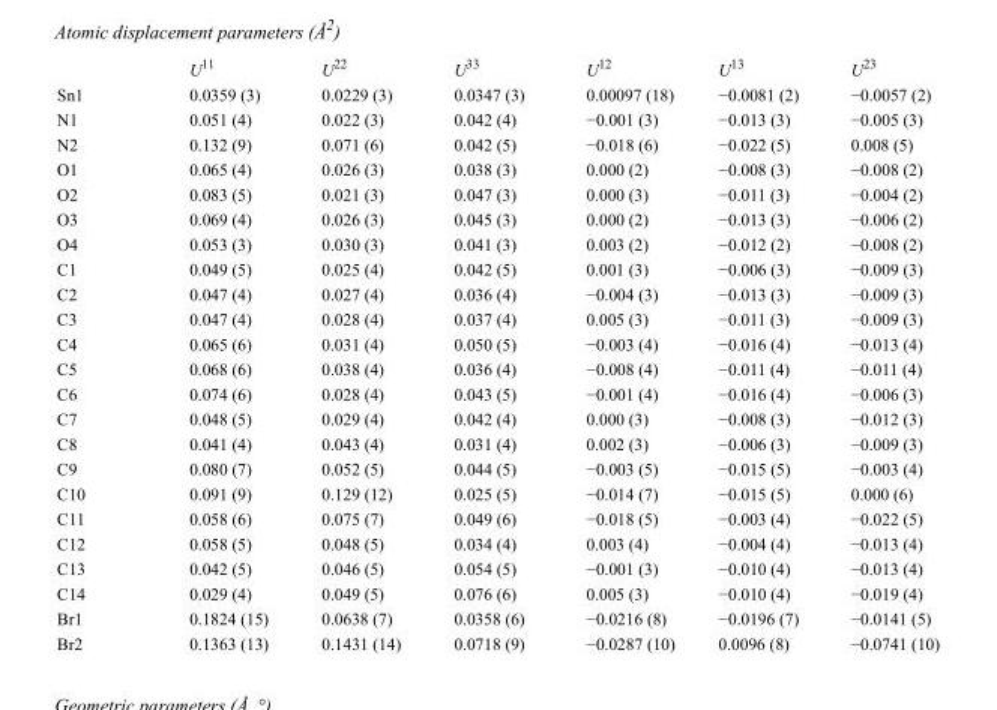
<table><thead><tr><td></td><td>U<sup>11</sup></td><td>U<sup>22</sup></td><td>U<sup>33</sup></td><td>U<sup>12</sup></td><td>U<sup>13</sup></td><td>U<sup>23</sup></td></tr></thead><tbody><tr><td>Sn1</td><td>0.0359 (3)</td><td>0.0229 (3)</td><td>0.0347 (3)</td><td>0.00097 (18)</td><td>−0.0081 (2)</td><td>−0.0057 (2)</td></tr><tr><td>N1</td><td>0.051 (4)</td><td>0.022 (3)</td><td>0.042 (4)</td><td>−0.001 (3)</td><td>−0.013 (3)</td><td>−0.005 (3)</td></tr><tr><td>N2</td><td>0.132 (9)</td><td>0.071 (6)</td><td>0.042 (5)</td><td>−0.018 (6)</td><td>−0.022 (5)</td><td>0.008 (5)</td></tr><tr><td>O1</td><td>0.065 (4)</td><td>0.026 (3)</td><td>0.038 (3)</td><td>0.000 (2)</td><td>−0.008 (3)</td><td>−0.008 (2)</td></tr><tr><td>O2</td><td>0.083 (5)</td><td>0.021 (3)</td><td>0.047 (3)</td><td>0.000 (3)</td><td>−0.011 (3)</td><td>−0.004 (2)</td></tr><tr><td>O3</td><td>0.069 (4)</td><td>0.026 (3)</td><td>0.045 (3)</td><td>0.000 (2)</td><td>−0.013 (3)</td><td>−0.006 (2)</td></tr><tr><td>O4</td><td>0.053 (3)</td><td>0.030 (3)</td><td>0.041 (3)</td><td>0.003 (2)</td><td>−0.012 (2)</td><td>−0.008 (2)</td></tr><tr><td>C1</td><td>0.049 (5)</td><td>0.025 (4)</td><td>0.042 (5)</td><td>0.001 (3)</td><td>−0.006 (3)</td><td>−0.009 (3)</td></tr><tr><td>C2</td><td>0.047 (4)</td><td>0.027 (4)</td><td>0.036 (4)</td><td>−0.004 (3)</td><td>−0.013 (3)</td><td>−0.009 (3)</td></tr><tr><td>C3</td><td>0.047 (4)</td><td>0.028 (4)</td><td>0.037 (4)</td><td>0.005 (3)</td><td>−0.011 (3)</td><td>−0.009 (3)</td></tr><tr><td>C4</td><td>0.065 (6)</td><td>0.031 (4)</td><td>0.050 (5)</td><td>−0.003 (4)</td><td>−0.016 (4)</td><td>−0.013 (4)</td></tr><tr><td>C5</td><td>0.068 (6)</td><td>0.038 (4)</td><td>0.036 (4)</td><td>−0.008 (4)</td><td>−0.011 (4)</td><td>−0.011 (4)</td></tr><tr><td>C6</td><td>0.074 (6)</td><td>0.028 (4)</td><td>0.043 (5)</td><td>−0.001 (4)</td><td>−0.016 (4)</td><td>−0.006 (3)</td></tr><tr><td>C7</td><td>0.048 (5)</td><td>0.029 (4)</td><td>0.042 (4)</td><td>0.000 (3)</td><td>−0.008 (3)</td><td>−0.012 (3)</td></tr><tr><td>C8</td><td>0.041 (4)</td><td>0.043 (4)</td><td>0.031 (4)</td><td>0.002 (3)</td><td>−0.006 (3)</td><td>−0.009 (3)</td></tr><tr><td>C9</td><td>0.080 (7)</td><td>0.052 (5)</td><td>0.044 (5)</td><td>−0.003 (5)</td><td>−0.015 (5)</td><td>−0.003 (4)</td></tr><tr><td>C10</td><td>0.091 (9)</td><td>0.129 (12)</td><td>0.025 (5)</td><td>−0.014 (7)</td><td>−0.015 (5)</td><td>0.000 (6)</td></tr><tr><td>C11</td><td>0.058 (6)</td><td>0.075 (7)</td><td>0.049 (6)</td><td>−0.018 (5)</td><td>−0.003 (4)</td><td>−0.022 (5)</td></tr><tr><td>C12</td><td>0.058 (5)</td><td>0.048 (5)</td><td>0.034 (4)</td><td>0.003 (4)</td><td>−0.004 (4)</td><td>−0.013 (4)</td></tr><tr><td>C13</td><td>0.042 (5)</td><td>0.046 (5)</td><td>0.054 (5)</td><td>−0.001 (3)</td><td>−0.010 (4)</td><td>−0.013 (4)</td></tr><tr><td>C14</td><td>0.029 (4)</td><td>0.049 (5)</td><td>0.076 (6)</td><td>0.005 (3)</td><td>−0.010 (4)</td><td>−0.019 (4)</td></tr><tr><td>Br1</td><td>0.1824 (15)</td><td>0.0638 (7)</td><td>0.0358 (6)</td><td>−0.0216 (8)</td><td>−0.0196 (7)</td><td>−0.0141 (5)</td></tr><tr><td>Br2</td><td>0.1363 (13)</td><td>0.1431 (14)</td><td>0.0718 (9)</td><td>−0.0287 (10)</td><td>0.0096 (8)</td><td>−0.0741 (10)</td></tr></tbody></table>